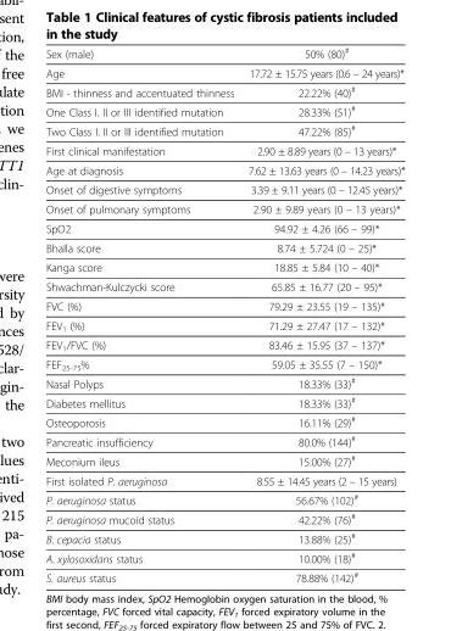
<table><tbody><tr><td>Sex (male)</td><td>50% (80)<sup>#</sup></td></tr><tr><td>Age</td><td>17.72 ± 15.75 years (0.6 – 24 years)*</td></tr><tr><td>BMI - thinness and accentuated thinness</td><td>22.22% (40)<sup>#</sup></td></tr><tr><td>One Class I. II or III identified mutation</td><td>28.33% (51)<sup>#</sup></td></tr><tr><td>Two Class I. II or III identified mutation</td><td>47.22% (85)<sup>#</sup></td></tr><tr><td>First clinical manifestation</td><td>2.90 ± 8.89 years (0 – 13 years)*</td></tr><tr><td>Age at diagnosis</td><td>7.62 ± 13.63 years (0 – 14.23 years)*</td></tr><tr><td>Onset of digestive symptoms</td><td>3.39 ± 9.11 years (0 – 12.45 years)*</td></tr><tr><td>Onset of pulmonary symptoms</td><td>2.90 ± 9.89 years (0 – 13 years)*</td></tr><tr><td>SpO2</td><td>94.92 ± 4.26 (66 – 99)*</td></tr><tr><td>Bhalla score</td><td>8.74 ± 5.724 (0 – 25)*</td></tr><tr><td>Kanga score</td><td>18.85 ± 5.84 (10 – 40)*</td></tr><tr><td>Shwachman-Kulczycki score</td><td>65.85 ± 16.77 (20 – 95)*</td></tr><tr><td>FVC (%)</td><td>79.29 ± 23.55 (19 – 135)*</td></tr><tr><td>FEV<sub>1</sub> (%)</td><td>71.29 ± 27.47 (17 – 132)*</td></tr><tr><td>FEV<sub>1</sub>/FVC (%)</td><td>83.46 ± 15.95 (37 – 137)*</td></tr><tr><td>FEF<sub>25-75</sub>%</td><td>59.05 ± 35.55 (7 – 150)*</td></tr><tr><td>Nasal Polyps</td><td>18.33% (33)<sup>#</sup></td></tr><tr><td>Diabetes mellitus</td><td>18.33% (33)<sup>#</sup></td></tr><tr><td>Osteoporosis</td><td>16.11% (29)<sup>#</sup></td></tr><tr><td>Pancreatic insufficiency</td><td>80.0% (144)<sup>#</sup></td></tr><tr><td>Meconium ileus</td><td>15.00% (27)<sup>#</sup></td></tr><tr><td>First isolated P. aeruginosa</td><td>8.55 ± 14.45 years (2 – 15 years)</td></tr><tr><td>P. aeruginosa status</td><td>56.67% (102)<sup>#</sup></td></tr><tr><td>P. aeruginosa mucoid status</td><td>42.22% (76)<sup>#</sup></td></tr><tr><td>B. cepacia status</td><td>13.88% (25)<sup>#</sup></td></tr><tr><td>A. xylosoxidans status</td><td>10.00% (18)<sup>#</sup></td></tr><tr><td>S. aureus status</td><td>78.88% (142)<sup>#</sup></td></tr></tbody></table>